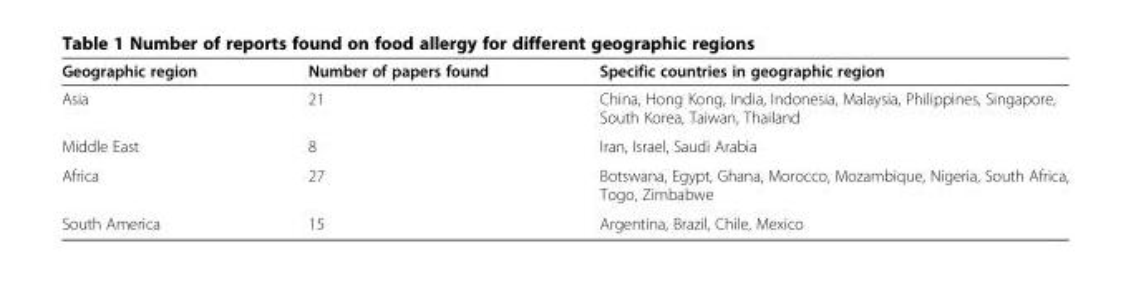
<table><thead><tr><td>Geographic region</td><td>Number of papers found</td><td>Specific countries in geographic region</td></tr></thead><tbody><tr><td>Asia</td><td>21</td><td>China, Hong Kong, India, Indonesia, Malaysia, Philippines, Singapore, South Korea, Taiwan, Thailand</td></tr><tr><td>Middle East</td><td>8</td><td>Iran, Israel, Saudi Arabia</td></tr><tr><td>Africa</td><td>27</td><td>Botswana, Egypt, Ghana, Morocco, Mozambique, Nigeria, South Africa, Togo, Zimbabwe</td></tr><tr><td>South America</td><td>15</td><td>Argentina, Brazil, Chile, Mexico</td></tr></tbody></table>